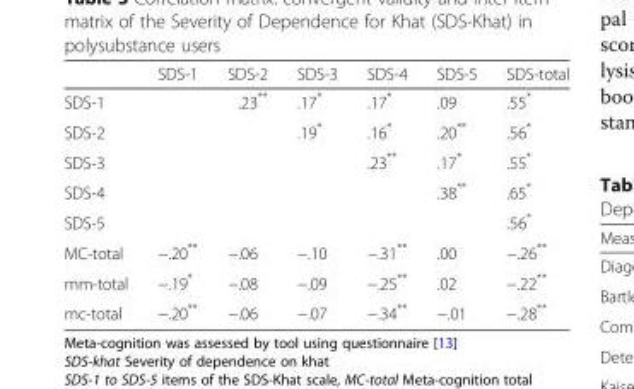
<table><thead><tr><td></td><td>SDS-1</td><td>SDS-2</td><td>SDS-3</td><td>SDS-4</td><td>SDS-5</td><td>SDS-total</td></tr></thead><tbody><tr><td>SDS-1</td><td></td><td>.23**</td><td>.17*</td><td>.17*</td><td>.09</td><td>.55*</td></tr><tr><td>SDS-2</td><td></td><td></td><td>.19*</td><td>.16*</td><td>.20**</td><td>.56*</td></tr><tr><td>SDS-3</td><td></td><td></td><td></td><td>.23**</td><td>.17*</td><td>.55*</td></tr><tr><td>SDS-4</td><td></td><td></td><td></td><td></td><td>.38**</td><td>.65*</td></tr><tr><td>SDS-5</td><td></td><td></td><td></td><td></td><td></td><td>.56*</td></tr><tr><td>MC-total</td><td>−.20**</td><td>−.06</td><td>−.10</td><td>−.31**</td><td>.00</td><td>−.26**</td></tr><tr><td>mm-total</td><td>−.19*</td><td>−.08</td><td>−.09</td><td>−.25**</td><td>.02</td><td>−.22**</td></tr><tr><td>mc-total</td><td>−.20**</td><td>−.06</td><td>−.07</td><td>−.34**</td><td>−.01</td><td>−.28**</td></tr></tbody></table>